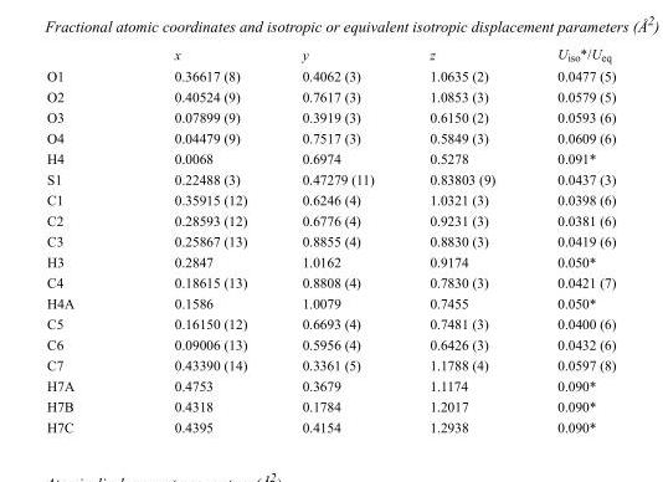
<table><thead><tr><td></td><td>x</td><td>y</td><td>z</td><td>U<sub>iso</sub>*/U<sub>eq</sub></td></tr></thead><tbody><tr><td>O1</td><td>0.36617 (8)</td><td>0.4062 (3)</td><td>1.0635 (2)</td><td>0.0477 (5)</td></tr><tr><td>O2</td><td>0.40524 (9)</td><td>0.7617 (3)</td><td>1.0853 (3)</td><td>0.0579 (5)</td></tr><tr><td>O3</td><td>0.07899 (9)</td><td>0.3919 (3)</td><td>0.6150 (2)</td><td>0.0593 (6)</td></tr><tr><td>O4</td><td>0.04479 (9)</td><td>0.7517 (3)</td><td>0.5849 (3)</td><td>0.0609 (6)</td></tr><tr><td>H4</td><td>0.0068</td><td>0.6974</td><td>0.5278</td><td>0.091*</td></tr><tr><td>S1</td><td>0.22488 (3)</td><td>0.47279 (11)</td><td>0.83803 (9)</td><td>0.0437 (3)</td></tr><tr><td>C1</td><td>0.35915 (12)</td><td>0.6246 (4)</td><td>1.0321 (3)</td><td>0.0398 (6)</td></tr><tr><td>C2</td><td>0.28593 (12)</td><td>0.6776 (4)</td><td>0.9231 (3)</td><td>0.0381 (6)</td></tr><tr><td>C3</td><td>0.25867 (13)</td><td>0.8855 (4)</td><td>0.8830 (3)</td><td>0.0419 (6)</td></tr><tr><td>H3</td><td>0.2847</td><td>1.0162</td><td>0.9174</td><td>0.050*</td></tr><tr><td>C4</td><td>0.18615 (13)</td><td>0.8808 (4)</td><td>0.7830 (3)</td><td>0.0421 (7)</td></tr><tr><td>H4A</td><td>0.1586</td><td>1.0079</td><td>0.7455</td><td>0.050*</td></tr><tr><td>C5</td><td>0.16150 (12)</td><td>0.6693 (4)</td><td>0.7481 (3)</td><td>0.0400 (6)</td></tr><tr><td>C6</td><td>0.09006 (13)</td><td>0.5956 (4)</td><td>0.6426 (3)</td><td>0.0432 (6)</td></tr><tr><td>C7</td><td>0.43390 (14)</td><td>0.3361 (5)</td><td>1.1788 (4)</td><td>0.0597 (8)</td></tr><tr><td>H7A</td><td>0.4753</td><td>0.3679</td><td>1.1174</td><td>0.090*</td></tr><tr><td>H7B</td><td>0.4318</td><td>0.1784</td><td>1.2017</td><td>0.090*</td></tr><tr><td>H7C</td><td>0.4395</td><td>0.4154</td><td>1.2938</td><td>0.090*</td></tr></tbody></table>